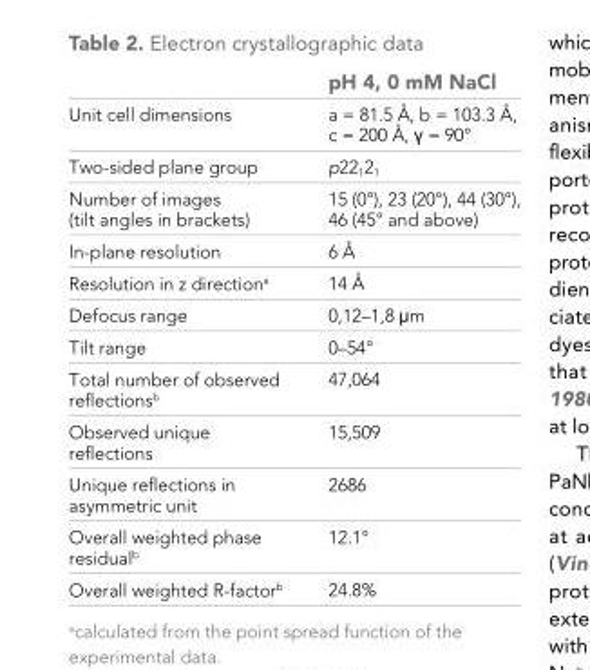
<table><thead><tr><td></td><td>pH 4, 0 mM NaCl</td></tr></thead><tbody><tr><td>Unit cell dimensions</td><td>a = 81.5 Å, b = 103.3 Å, c = 200 Å, γ = 90°</td></tr><tr><td>Two-sided plane group</td><td>p22<sub>1</sub>2<sub>1</sub></td></tr><tr><td>Number of images (tilt angles in brackets)</td><td>15 (0°), 23 (20°), 44 (30°), 46 (45° and above)</td></tr><tr><td>In-plane resolution</td><td>6 Å</td></tr><tr><td>Resolution in z direction<sup>a</sup></td><td>14 Å</td></tr><tr><td>Defocus range</td><td>0,12–1,8 μm</td></tr><tr><td>Tilt range</td><td>0–54°</td></tr><tr><td>Total number of observed reflections<sup>b</sup></td><td>47,064</td></tr><tr><td>Observed unique reflections</td><td>15,509</td></tr><tr><td>Unique reflections in asymmetric unit</td><td>2686</td></tr><tr><td>Overall weighted phase residual<sup>b</sup></td><td>12.1°</td></tr><tr><td>Overall weighted R-factor<sup>b</sup></td><td>24.8%</td></tr></tbody></table>